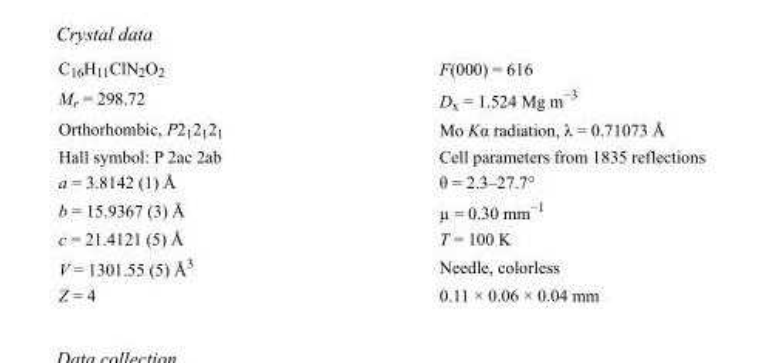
<table><tbody><tr><td>C<sub>16</sub>H<sub>11</sub>ClN<sub>2</sub>O<sub>2</sub></td><td>F(000) = 616</td></tr><tr><td>M<sub>r</sub> = 298.72</td><td>D<sub>x</sub> = 1.524 Mg m<sup>−3</sup></td></tr><tr><td>Orthorhombic, P2<sub>1</sub>2<sub>1</sub>2<sub>1</sub></td><td>Mo Kα radiation, λ = 0.71073 Å</td></tr><tr><td>Hall symbol: P 2ac 2ab</td><td>Cell parameters from 1835 reflections</td></tr><tr><td>a = 3.8142 (1) Å</td><td>θ = 2.3–27.7°</td></tr><tr><td>b = 15.9367 (3) Å</td><td>µ = 0.30 mm<sup>−1</sup></td></tr><tr><td>c = 21.4121 (5) Å</td><td>T = 100 K</td></tr><tr><td>V = 1301.55 (5) Å<sup>3</sup></td><td>Needle, colorless</td></tr><tr><td>Z = 4</td><td>0.11 × 0.06 × 0.04 mm</td></tr></tbody></table>